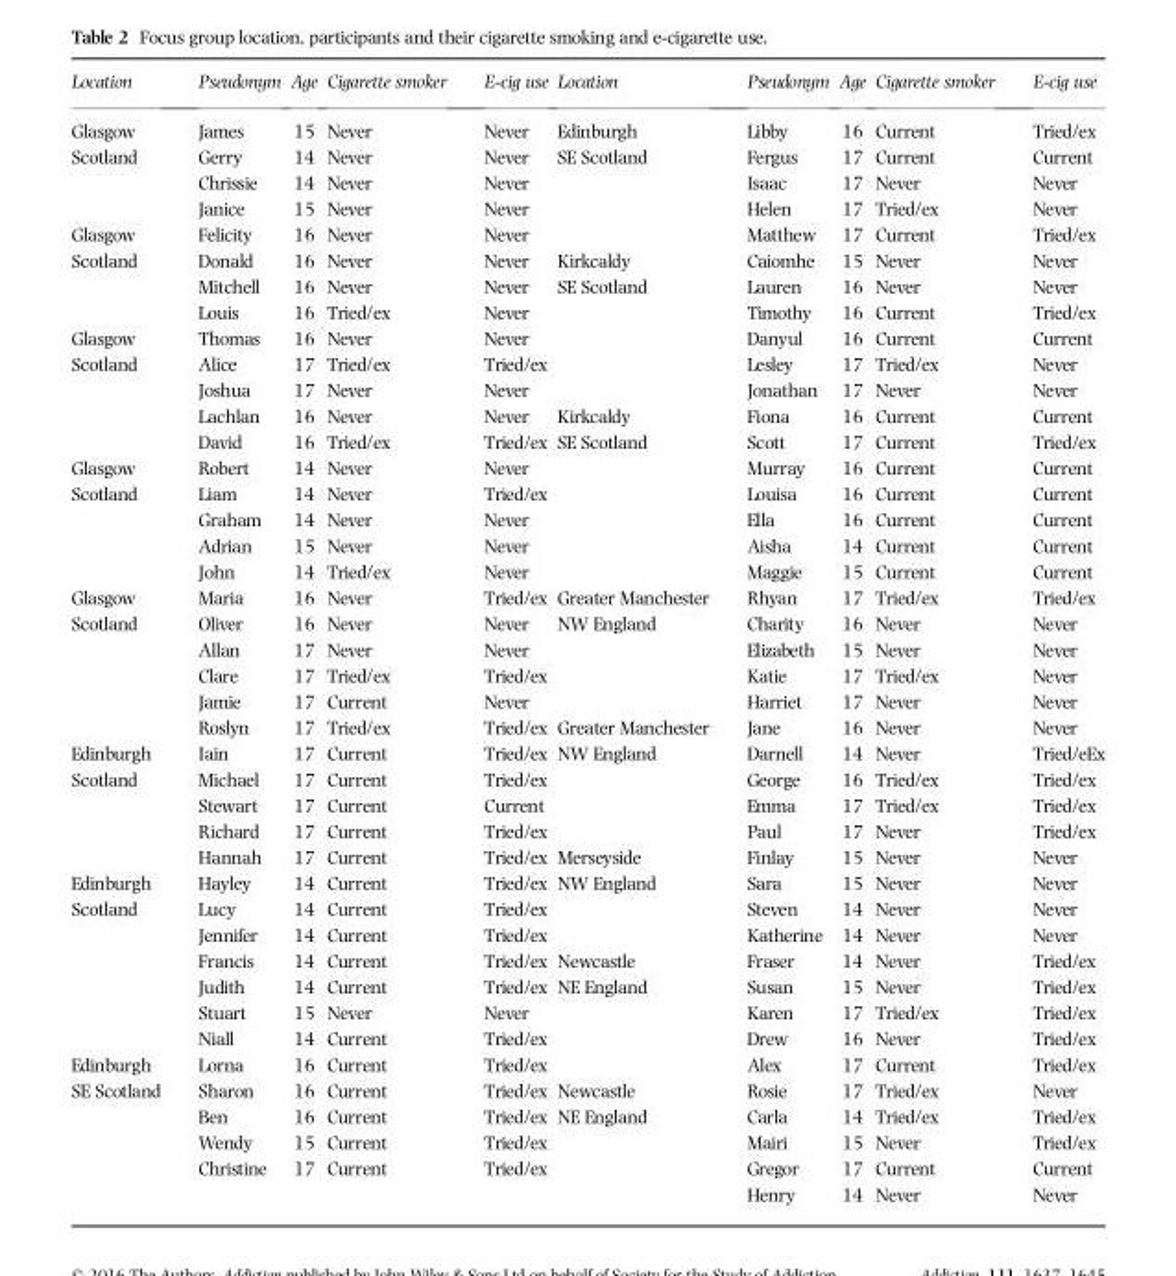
<table><thead><tr><td>Location</td><td>Pseudonym</td><td>Age</td><td>Cigarette smoker</td><td>E-cig use</td><td>Location</td><td>Pseudonym</td><td>Age</td><td>Cigarette smoker</td><td>E-cig use</td></tr></thead><tbody><tr><td rowspan="4">Glasgow Scotland</td><td>James</td><td>15</td><td>Never</td><td>Never</td><td rowspan="2">Edinburgh SE Scotland</td><td>Libby</td><td>16</td><td>Current</td><td>Tried/ex</td></tr><tr><td>Gerry</td><td>14</td><td>Never</td><td>Never</td><td>Fergus</td><td>17</td><td>Current</td><td>Current</td></tr><tr><td>Chrissie</td><td>14</td><td>Never</td><td>Never</td><td></td><td>Isaac</td><td>17</td><td>Never</td><td>Never</td></tr><tr><td>Janice</td><td>15</td><td>Never</td><td>Never</td><td></td><td>Helen</td><td>17</td><td>Tried/ex</td><td>Never</td></tr><tr><td rowspan="4">Glasgow Scotland</td><td>Felicity</td><td>16</td><td>Never</td><td>Never</td><td></td><td>Matthew</td><td>17</td><td>Current</td><td>Tried/ex</td></tr><tr><td>Donald</td><td>16</td><td>Never</td><td>Never</td><td rowspan="2">Kirkcaldy SE Scotland</td><td>Caiomhe</td><td>15</td><td>Never</td><td>Never</td></tr><tr><td>Mitchell</td><td>16</td><td>Never</td><td>Never</td><td>Lauren</td><td>16</td><td>Never</td><td>Never</td></tr><tr><td>Louis</td><td>16</td><td>Tried/ex</td><td>Never</td><td></td><td>Timothy</td><td>16</td><td>Current</td><td>Tried/ex</td></tr><tr><td rowspan="5">Glasgow Scotland</td><td>Thomas</td><td>16</td><td>Never</td><td>Never</td><td></td><td>Danyul</td><td>16</td><td>Current</td><td>Current</td></tr><tr><td>Alice</td><td>17</td><td>Tried/ex</td><td>Tried/ex</td><td></td><td>Lesley</td><td>17</td><td>Tried/ex</td><td>Never</td></tr><tr><td>Joshua</td><td>17</td><td>Never</td><td>Never</td><td></td><td>Jonathan</td><td>17</td><td>Never</td><td>Never</td></tr><tr><td>Lachlan</td><td>16</td><td>Never</td><td>Never</td><td rowspan="2">Kirkcaldy SE Scotland</td><td>Fiona</td><td>16</td><td>Current</td><td>Current</td></tr><tr><td>David</td><td>16</td><td>Tried/ex</td><td>Tried/ex</td><td>Scott</td><td>17</td><td>Current</td><td>Tried/ex</td></tr><tr><td rowspan="5">Glasgow Scotland</td><td>Robert</td><td>14</td><td>Never</td><td>Never</td><td></td><td>Murray</td><td>16</td><td>Current</td><td>Current</td></tr><tr><td>Liam</td><td>14</td><td>Never</td><td>Tried/ex</td><td></td><td>Louisa</td><td>16</td><td>Current</td><td>Current</td></tr><tr><td>Graham</td><td>14</td><td>Never</td><td>Never</td><td></td><td>Ella</td><td>16</td><td>Current</td><td>Current</td></tr><tr><td>Adrian</td><td>15</td><td>Never</td><td>Never</td><td></td><td>Aisha</td><td>14</td><td>Current</td><td>Current</td></tr><tr><td>John</td><td>14</td><td>Tried/ex</td><td>Never</td><td></td><td>Maggie</td><td>15</td><td>Current</td><td>Current</td></tr><tr><td rowspan="6">Glasgow Scotland</td><td>Maria</td><td>16</td><td>Never</td><td>Tried/ex</td><td rowspan="3">Greater Manchester NW England</td><td>Rhyan</td><td>17</td><td>Tried/ex</td><td>Tried/ex</td></tr><tr><td>Oliver</td><td>16</td><td>Never</td><td>Never</td><td>Charity</td><td>16</td><td>Never</td><td>Never</td></tr><tr><td>Allan</td><td>17</td><td>Never</td><td>Never</td><td>Elizabeth</td><td>15</td><td>Never</td><td>Never</td></tr><tr><td>Clare</td><td>17</td><td>Tried/ex</td><td>Tried/ex</td><td></td><td>Katie</td><td>17</td><td>Tried/ex</td><td>Never</td></tr><tr><td>Jamie</td><td>17</td><td>Current</td><td>Never</td><td></td><td>Harriet</td><td>17</td><td>Never</td><td>Never</td></tr><tr><td>Roslyn</td><td>17</td><td>Tried/ex</td><td>Tried/ex</td><td rowspan="3">Greater Manchester NW England</td><td>Jane</td><td>16</td><td>Never</td><td>Never</td></tr><tr><td rowspan="5">Edinburgh Scotland</td><td>Iain</td><td>17</td><td>Current</td><td>Tried/ex</td><td>Darnell</td><td>14</td><td>Never</td><td>Tried/eEx</td></tr><tr><td>Michael</td><td>17</td><td>Current</td><td>Tried/ex</td><td>George</td><td>16</td><td>Tried/ex</td><td>Tried/ex</td></tr><tr><td>Stewart</td><td>17</td><td>Current</td><td>Current</td><td></td><td>Emma</td><td>17</td><td>Tried/ex</td><td>Tried/ex</td></tr><tr><td>Richard</td><td>17</td><td>Current</td><td>Tried/ex</td><td></td><td>Paul</td><td>17</td><td>Never</td><td>Tried/ex</td></tr><tr><td>Hannah</td><td>17</td><td>Current</td><td>Tried/ex</td><td rowspan="2">Merseyside NW England</td><td>Finlay</td><td>15</td><td>Never</td><td>Never</td></tr><tr><td rowspan="7">Edinburgh Scotland</td><td>Hayley</td><td>14</td><td>Current</td><td>Tried/ex</td><td>Sara</td><td>15</td><td>Never</td><td>Never</td></tr><tr><td>Lucy</td><td>14</td><td>Current</td><td>Tried/ex</td><td></td><td>Steven</td><td>14</td><td>Never</td><td>Never</td></tr><tr><td>Jennifer</td><td>14</td><td>Current</td><td>Tried/ex</td><td></td><td>Katherine</td><td>14</td><td>Never</td><td>Never</td></tr><tr><td>Francis</td><td>14</td><td>Current</td><td>Tried/ex</td><td rowspan="2">Newcastle NE England</td><td>Fraser</td><td>14</td><td>Never</td><td>Tried/ex</td></tr><tr><td>Judith</td><td>14</td><td>Current</td><td>Tried/ex</td><td>Susan</td><td>15</td><td>Never</td><td>Tried/ex</td></tr><tr><td>Stuart</td><td>15</td><td>Never</td><td>Never</td><td></td><td>Karen</td><td>17</td><td>Tried/ex</td><td>Tried/ex</td></tr><tr><td>Niall</td><td>14</td><td>Current</td><td>Tried/ex</td><td></td><td>Drew</td><td>16</td><td>Never</td><td>Tried/ex</td></tr><tr><td rowspan="6">Edinburgh SE Scotland</td><td>Lorna</td><td>16</td><td>Current</td><td>Tried/ex</td><td></td><td>Alex</td><td>17</td><td>Current</td><td>Tried/ex</td></tr><tr><td>Sharon</td><td>16</td><td>Current</td><td>Tried/ex</td><td rowspan="2">Newcastle NE England</td><td>Rosie</td><td>17</td><td>Tried/ex</td><td>Never</td></tr><tr><td>Ben</td><td>16</td><td>Current</td><td>Tried/ex</td><td>Carla</td><td>14</td><td>Tried/ex</td><td>Tried/ex</td></tr><tr><td>Wendy</td><td>15</td><td>Current</td><td>Tried/ex</td><td></td><td>Mairi</td><td>15</td><td>Never</td><td>Tried/ex</td></tr><tr><td>Christine</td><td>17</td><td>Current</td><td>Tried/ex</td><td></td><td>Gregor</td><td>17</td><td>Current</td><td>Current</td></tr><tr><td></td><td></td><td></td><td></td><td></td><td>Henry</td><td>14</td><td>Never</td><td>Never</td></tr></tbody></table>